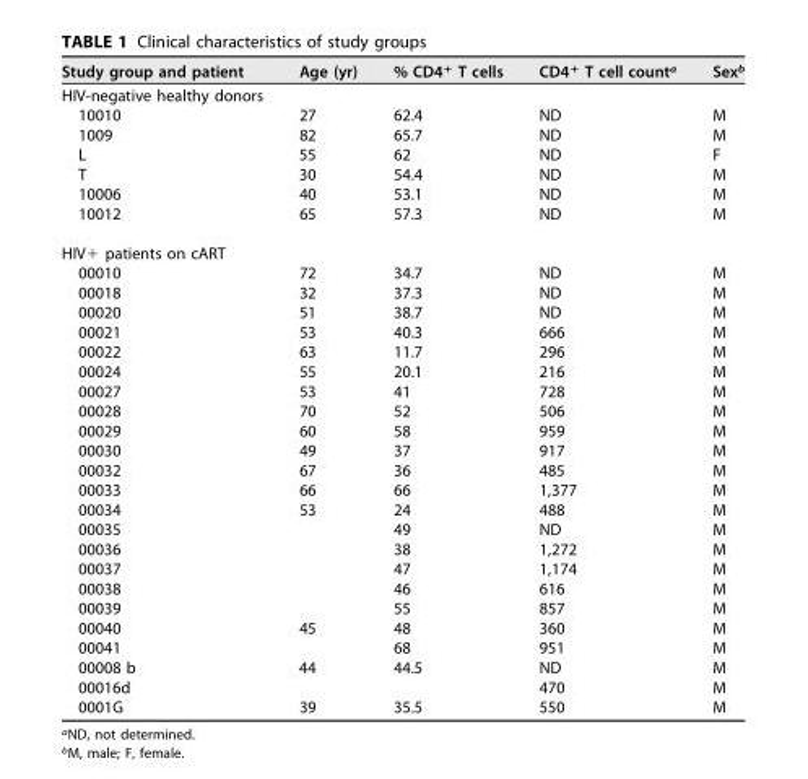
<table><thead><tr><td>Study group and patient</td><td>Age (yr)</td><td>% CD4<sup>+</sup> T cells</td><td>CD4<sup>+</sup> T cell count<sup>a</sup></td><td>Sex<sup>b</sup></td></tr></thead><tbody><tr><td colspan="5">HIV-negative healthy donors</td></tr><tr><td>10010</td><td>27</td><td>62.4</td><td>ND</td><td>M</td></tr><tr><td>1009</td><td>82</td><td>65.7</td><td>ND</td><td>M</td></tr><tr><td>L</td><td>55</td><td>62</td><td>ND</td><td>F</td></tr><tr><td>T</td><td>30</td><td>54.4</td><td>ND</td><td>M</td></tr><tr><td>10006</td><td>40</td><td>53.1</td><td>ND</td><td>M</td></tr><tr><td>10012</td><td>65</td><td>57.3</td><td>ND</td><td>M</td></tr><tr><td colspan="5">HIV+ patients on cART</td></tr><tr><td>00010</td><td>72</td><td>34.7</td><td>ND</td><td>M</td></tr><tr><td>00018</td><td>32</td><td>37.3</td><td>ND</td><td>M</td></tr><tr><td>00020</td><td>51</td><td>38.7</td><td>ND</td><td>M</td></tr><tr><td>00021</td><td>53</td><td>40.3</td><td>666</td><td>M</td></tr><tr><td>00022</td><td>63</td><td>11.7</td><td>296</td><td>M</td></tr><tr><td>00024</td><td>55</td><td>20.1</td><td>216</td><td>M</td></tr><tr><td>00027</td><td>53</td><td>41</td><td>728</td><td>M</td></tr><tr><td>00028</td><td>70</td><td>52</td><td>506</td><td>M</td></tr><tr><td>00029</td><td>60</td><td>58</td><td>959</td><td>M</td></tr><tr><td>00030</td><td>49</td><td>37</td><td>917</td><td>M</td></tr><tr><td>00032</td><td>67</td><td>36</td><td>485</td><td>M</td></tr><tr><td>00033</td><td>66</td><td>66</td><td>1,377</td><td>M</td></tr><tr><td>00034</td><td>53</td><td>24</td><td>488</td><td>M</td></tr><tr><td>00035</td><td></td><td>49</td><td>ND</td><td>M</td></tr><tr><td>00036</td><td></td><td>38</td><td>1,272</td><td>M</td></tr><tr><td>00037</td><td></td><td>47</td><td>1,174</td><td>M</td></tr><tr><td>00038</td><td></td><td>46</td><td>616</td><td>M</td></tr><tr><td>00039</td><td></td><td>55</td><td>857</td><td>M</td></tr><tr><td>00040</td><td>45</td><td>48</td><td>360</td><td>M</td></tr><tr><td>00041</td><td></td><td>68</td><td>951</td><td>M</td></tr><tr><td>00008 b</td><td>44</td><td>44.5</td><td>ND</td><td>M</td></tr><tr><td>00016d</td><td></td><td></td><td>470</td><td>M</td></tr><tr><td>0001G</td><td>39</td><td>35.5</td><td>550</td><td>M</td></tr></tbody></table>